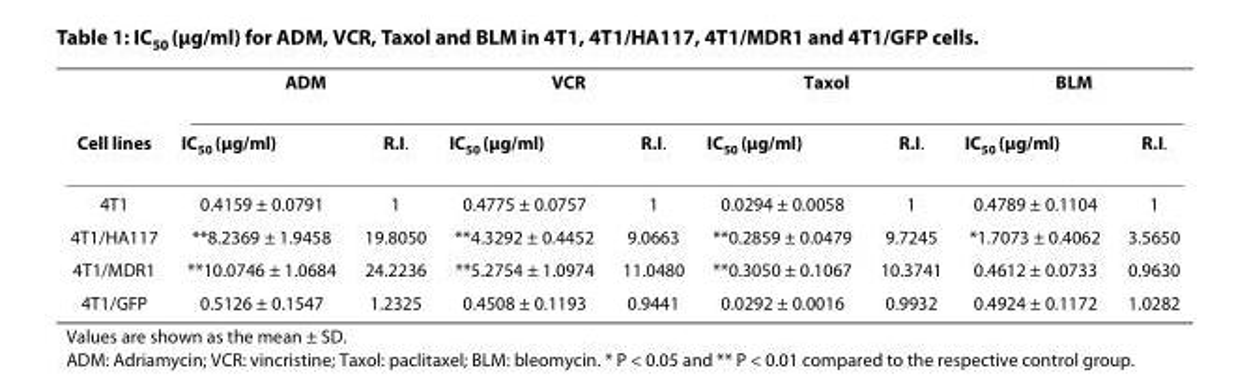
<table><thead><tr><td rowspan="2">Cell lines</td><td colspan="2">ADM</td><td colspan="2">VCR</td><td colspan="2">Taxol</td><td colspan="2">BLM</td></tr><tr><td>IC<sub>50</sub> (μg/ml)</td><td>R.I.</td><td>IC<sub>50</sub> (μg/ml)</td><td>R.I.</td><td>IC<sub>50</sub> (μg/ml)</td><td>R.I.</td><td>IC<sub>50</sub> (μg/ml)</td><td>R.I.</td></tr></thead><tbody><tr><td>4T1</td><td>0.4159 ± 0.0791</td><td>1</td><td>0.4775 ± 0.0757</td><td>1</td><td>0.0294 ± 0.0058</td><td>1</td><td>0.4789 ± 0.1104</td><td>1</td></tr><tr><td>4T1/HA117</td><td>**8.2369 ± 1.9458</td><td>19.8050</td><td>**4.3292 ± 0.4452</td><td>9.0663</td><td>**0.2859 ± 0.0479</td><td>9.7245</td><td>*1.7073 ± 0.4062</td><td>3.5650</td></tr><tr><td>4T1/MDR1</td><td>**10.0746 ± 1.0684</td><td>24.2236</td><td>**5.2754 ± 1.0974</td><td>11.0480</td><td>**0.3050 ± 0.1067</td><td>10.3741</td><td>0.4612 ± 0.0733</td><td>0.9630</td></tr><tr><td>4T1/GFP</td><td>0.5126 ± 0.1547</td><td>1.2325</td><td>0.4508 ± 0.1193</td><td>0.9441</td><td>0.0292 ± 0.0016</td><td>0.9932</td><td>0.4924 ± 0.1172</td><td>1.0282</td></tr></tbody></table>